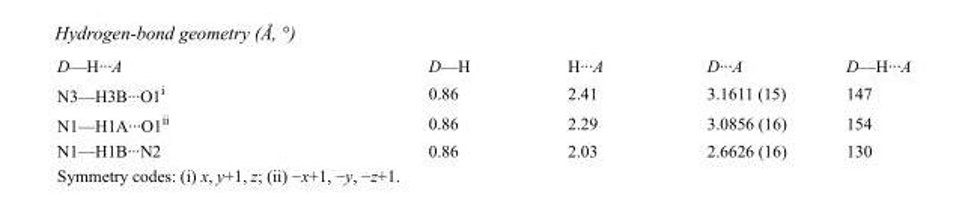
<table><tbody><tr><td>D—H···A</td><td>D—H</td><td>H···A</td><td>D···A</td><td>D—H···A</td></tr><tr><td>N3—H3B···O1<sup>i</sup></td><td>0.86</td><td>2.41</td><td>3.1611 (15)</td><td>147</td></tr><tr><td>N1—H1A···O1<sup>ii</sup></td><td>0.86</td><td>2.29</td><td>3.0856 (16)</td><td>154</td></tr><tr><td>N1—H1B···N2</td><td>0.86</td><td>2.03</td><td>2.6626 (16)</td><td>130</td></tr></tbody></table>